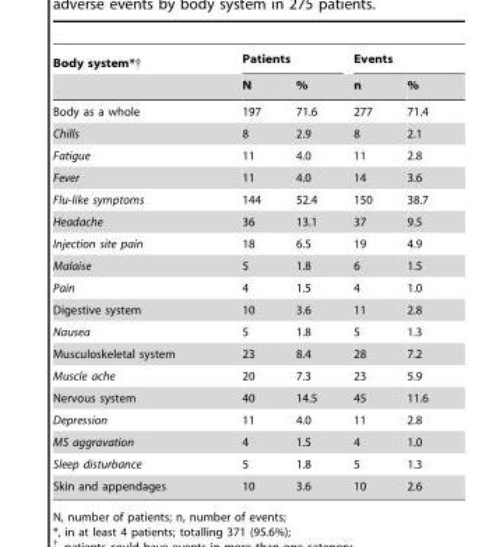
<table><thead><tr><td rowspan="2">Body system*†</td><td colspan="2">Patients</td><td colspan="2">Events</td></tr><tr><td>N</td><td>%</td><td>n</td><td>%</td></tr></thead><tbody><tr><td>Body as a whole</td><td>197</td><td>71.6</td><td>277</td><td>71.4</td></tr><tr><td>Chills</td><td>8</td><td>2.9</td><td>8</td><td>2.1</td></tr><tr><td>Fatigue</td><td>11</td><td>4.0</td><td>11</td><td>2.8</td></tr><tr><td>Fever</td><td>11</td><td>4.0</td><td>14</td><td>3.6</td></tr><tr><td>Flu-like symptoms</td><td>144</td><td>52.4</td><td>150</td><td>38.7</td></tr><tr><td>Headache</td><td>36</td><td>13.1</td><td>37</td><td>9.5</td></tr><tr><td>Injection site pain</td><td>18</td><td>6.5</td><td>19</td><td>4.9</td></tr><tr><td>Malaise</td><td>5</td><td>1.8</td><td>6</td><td>1.5</td></tr><tr><td>Pain</td><td>4</td><td>1.5</td><td>4</td><td>1.0</td></tr><tr><td>Digestive system</td><td>10</td><td>3.6</td><td>11</td><td>2.8</td></tr><tr><td>Nausea</td><td>5</td><td>1.8</td><td>5</td><td>1.3</td></tr><tr><td>Musculoskeletal system</td><td>23</td><td>8.4</td><td>28</td><td>7.2</td></tr><tr><td>Muscle ache</td><td>20</td><td>7.3</td><td>23</td><td>5.9</td></tr><tr><td>Nervous system</td><td>40</td><td>14.5</td><td>45</td><td>11.6</td></tr><tr><td>Depression</td><td>11</td><td>4.0</td><td>11</td><td>2.8</td></tr><tr><td>MS aggravation</td><td>4</td><td>1.5</td><td>4</td><td>1.0</td></tr><tr><td>Sleep disturbance</td><td>5</td><td>1.8</td><td>5</td><td>1.3</td></tr><tr><td>Skin and appendages</td><td>10</td><td>3.6</td><td>10</td><td>2.6</td></tr></tbody></table>